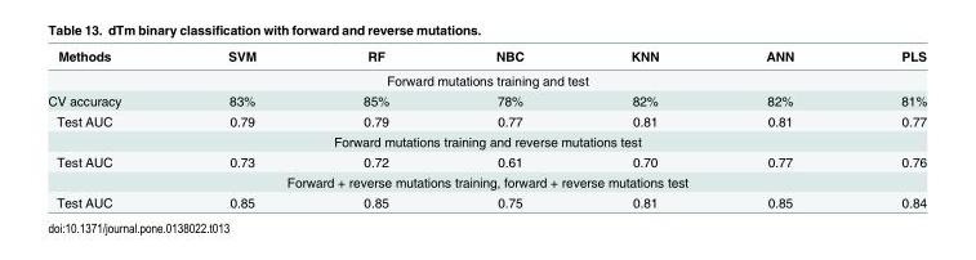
<table><thead><tr><td>Methods</td><td>SVM</td><td>RF</td><td>NBC</td><td>KNN</td><td>ANN</td><td>PLS</td></tr></thead><tbody><tr><td colspan="7">Forward mutations training and test</td></tr><tr><td>CV accuracy</td><td>83%</td><td>85%</td><td>78%</td><td>82%</td><td>82%</td><td>81%</td></tr><tr><td>Test AUC</td><td>0.79</td><td>0.79</td><td>0.77</td><td>0.81</td><td>0.81</td><td>0.77</td></tr><tr><td colspan="7">Forward mutations training and reverse mutations test</td></tr><tr><td>Test AUC</td><td>0.73</td><td>0.72</td><td>0.61</td><td>0.70</td><td>0.77</td><td>0.76</td></tr><tr><td colspan="7">Forward + reverse mutations training, forward + reverse mutations test</td></tr><tr><td>Test AUC</td><td>0.85</td><td>0.85</td><td>0.75</td><td>0.81</td><td>0.85</td><td>0.84</td></tr></tbody></table>